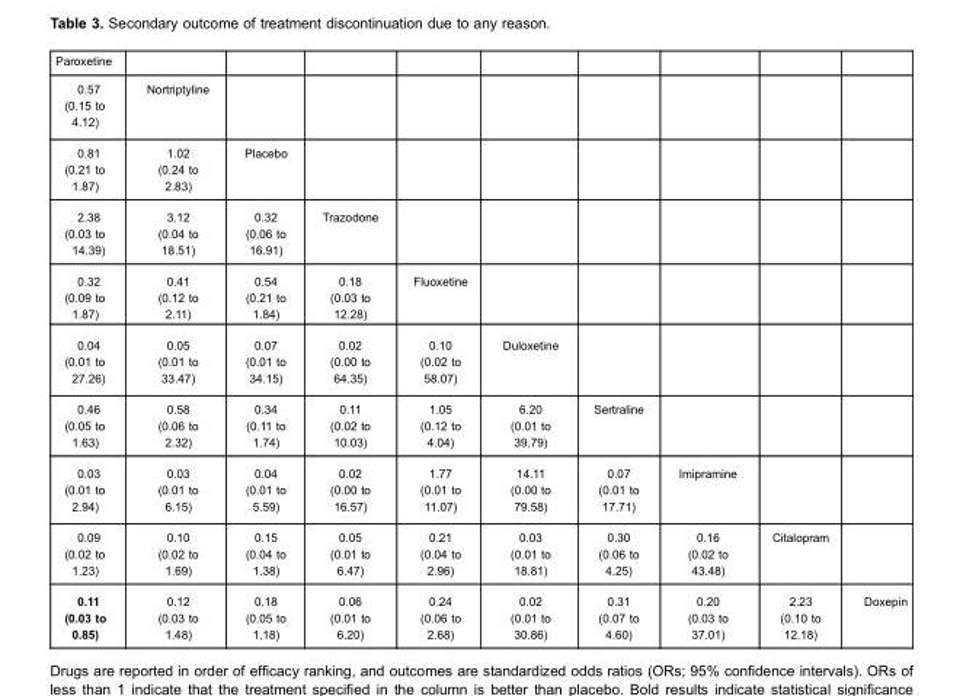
<table><tbody><tr><td colspan="10">Paroxetine</td></tr><tr><td>0.57 (0.15 to 4.12)</td><td>Nortriptyline</td><td></td><td></td><td></td><td></td><td></td><td></td><td></td><td></td></tr><tr><td>0.81 (0.21 to 1.87)</td><td>1.02 (0.24 to 2.83)</td><td>Placebo</td><td></td><td></td><td></td><td></td><td></td><td></td><td></td></tr><tr><td>2.38 (0.03 to 14.39)</td><td>3.12 (0.04 to 18.51)</td><td>0.32 (0.06 to 16.91)</td><td>Trazodone</td><td></td><td></td><td></td><td></td><td></td><td></td></tr><tr><td>0.32 (0.09 to 1.87)</td><td>0.41 (0.12 to 2.11)</td><td>0.54 (0.21 to 1.84)</td><td>0.18 (0.03 to 12.28)</td><td>Fluoxetine</td><td></td><td></td><td></td><td></td><td></td></tr><tr><td>0.04 (0.01 to 27.26)</td><td>0.05 (0.01 to 33.47)</td><td>0.07 (0.01 to 34.15)</td><td>0.02 (0.00 to 64.35)</td><td>0.10 (0.02 to 58.07)</td><td>Duloxetine</td><td></td><td></td><td></td><td></td></tr><tr><td>0.46 (0.05 to 1.63)</td><td>0.58 (0.06 to 2.32)</td><td>0.34 (0.11 to 1.74)</td><td>0.11 (0.02 to 10.03)</td><td>1.05 (0.12 to 4.04)</td><td>6.20 (0.01 to 39.79)</td><td>Sertraline</td><td></td><td></td><td></td></tr><tr><td>0.03 (0.01 to 2.94)</td><td>0.03 (0.01 to 6.15)</td><td>0.04 (0.01 to 5.59)</td><td>0.02 (0.00 to 16.57)</td><td>1.77 (0.01 to 11.07)</td><td>14.11 (0.00 to 79.58)</td><td>0.07 (0.01 to 17.71)</td><td>Imipramine</td><td></td><td></td></tr><tr><td>0.09 (0.02 to 1.23)</td><td>0.10 (0.02 to 1.69)</td><td>0.15 (0.04 to 1.38)</td><td>0.05 (0.01 to 6.47)</td><td>0.21 (0.04 to 2.96)</td><td>0.03 (0.01 to 18.81)</td><td>0.30 (0.06 to 4.25)</td><td>0.16 (0.02 to 43.48)</td><td>Citalopram</td><td></td></tr><tr><td>0.11 (0.03 to 0.85)</td><td>0.12 (0.03 to 1.48)</td><td>0.18 (0.05 to 1.18)</td><td>0.06 (0.01 to 6.20)</td><td>0.24 (0.06 to 2.68)</td><td>0.02 (0.01 to 30.86)</td><td>0.31 (0.07 to 4.60)</td><td>0.20 (0.03 to 37.01)</td><td>2.23 (0.10 to 12.18)</td><td>Doxepin</td></tr></tbody></table>